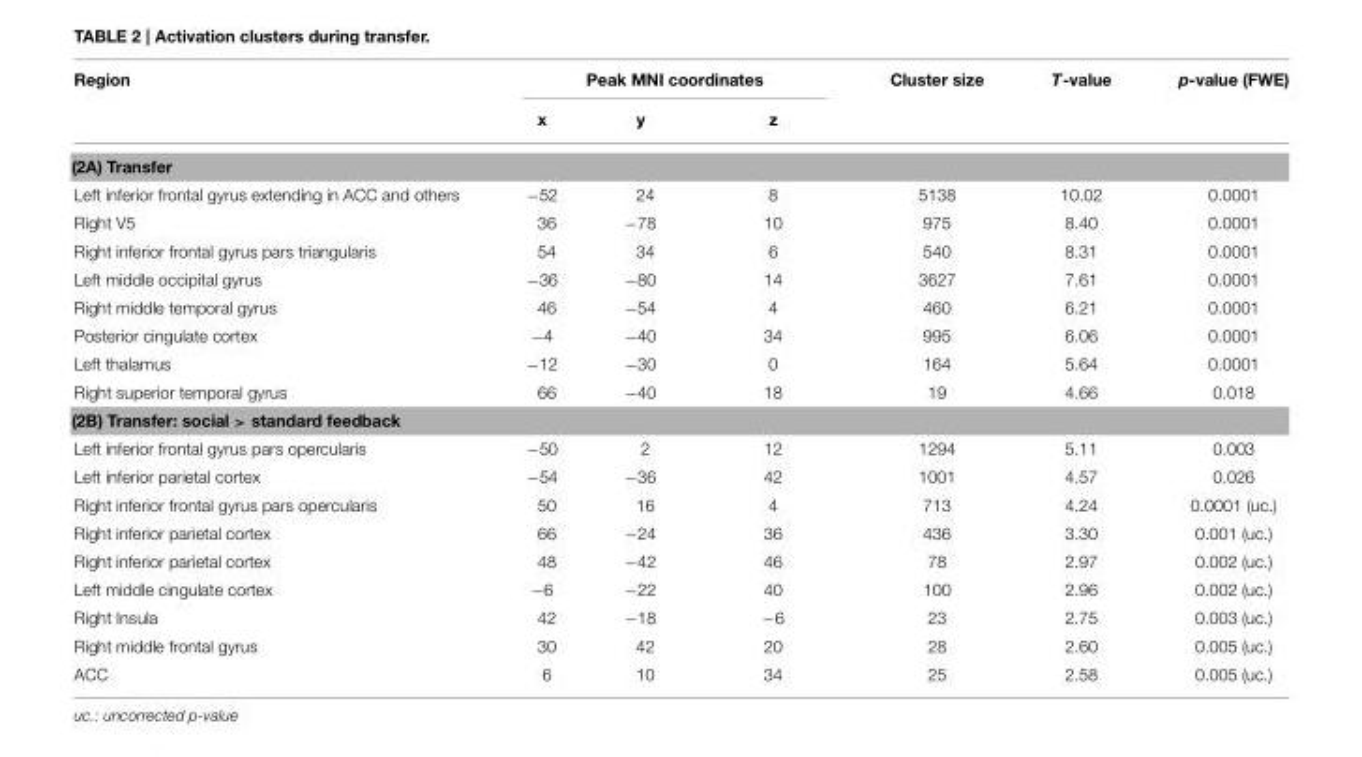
<table><thead><tr><td rowspan="2">Region</td><td colspan="3">Peak MNI coordinates</td><td rowspan="2">Cluster size</td><td rowspan="2">T-value</td><td rowspan="2">p-value (FWE)</td></tr><tr><td>x</td><td>y</td><td>z</td></tr></thead><tbody><tr><td colspan="7">(2A) Transfer</td></tr><tr><td>Left inferior frontal gyrus extending in ACC and others</td><td>−52</td><td>24</td><td>8</td><td>5138</td><td>10.02</td><td>0.0001</td></tr><tr><td>Right V5</td><td>36</td><td>−78</td><td>10</td><td>975</td><td>8.40</td><td>0.0001</td></tr><tr><td>Right inferior frontal gyrus pars triangularis</td><td>54</td><td>34</td><td>6</td><td>540</td><td>8.31</td><td>0.0001</td></tr><tr><td>Left middle occipital gyrus</td><td>−36</td><td>−80</td><td>14</td><td>3627</td><td>7.61</td><td>0.0001</td></tr><tr><td>Right middle temporal gyrus</td><td>46</td><td>−54</td><td>4</td><td>460</td><td>6.21</td><td>0.0001</td></tr><tr><td>Posterior cingulate cortex</td><td>−4</td><td>−40</td><td>34</td><td>995</td><td>6.06</td><td>0.0001</td></tr><tr><td>Left thalamus</td><td>−12</td><td>−30</td><td>0</td><td>164</td><td>5.64</td><td>0.0001</td></tr><tr><td>Right superior temporal gyrus</td><td>66</td><td>−40</td><td>18</td><td>19</td><td>4.66</td><td>0.018</td></tr><tr><td colspan="7">(2B) Transfer: social &gt; standard feedback</td></tr><tr><td>Left inferior frontal gyrus pars opercularis</td><td>−50</td><td>2</td><td>12</td><td>1294</td><td>5.11</td><td>0.003</td></tr><tr><td>Left inferior parietal cortex</td><td>−54</td><td>−36</td><td>42</td><td>1001</td><td>4.57</td><td>0.026</td></tr><tr><td>Right inferior frontal gyrus pars opercularis</td><td>50</td><td>16</td><td>4</td><td>713</td><td>4.24</td><td>0.0001 (uc.)</td></tr><tr><td>Right inferior parietal cortex</td><td>66</td><td>−24</td><td>36</td><td>436</td><td>3.30</td><td>0.001 (uc.)</td></tr><tr><td>Right inferior parietal cortex</td><td>48</td><td>−42</td><td>46</td><td>78</td><td>2.97</td><td>0.002 (uc.)</td></tr><tr><td>Left middle cingulate cortex</td><td>−6</td><td>−22</td><td>40</td><td>100</td><td>2.96</td><td>0.002 (uc.)</td></tr><tr><td>Right Insula</td><td>42</td><td>−18</td><td>−6</td><td>23</td><td>2.75</td><td>0.003 (uc.)</td></tr><tr><td>Right middle frontal gyrus</td><td>30</td><td>42</td><td>20</td><td>28</td><td>2.60</td><td>0.005 (uc.)</td></tr><tr><td>ACC</td><td>6</td><td>10</td><td>34</td><td>25</td><td>2.58</td><td>0.005 (uc.)</td></tr></tbody></table>